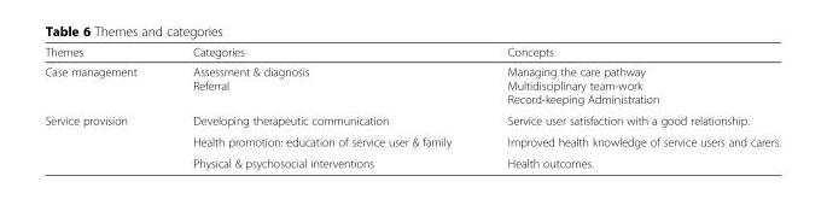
<table><thead><tr><td>Themes</td><td>Categories</td><td>Concepts</td></tr></thead><tbody><tr><td>Case management</td><td>Assessment &amp; diagnosis Referral</td><td>Managing the care pathway Multidisciplinary team-work Record-keeping Administration</td></tr><tr><td rowspan="3">Service provision</td><td>Developing therapeutic communication</td><td>Service user satisfaction with a good relationship.</td></tr><tr><td>Health promotion: education of service user &amp; family</td><td>Improved health knowledge of service users and carers.</td></tr><tr><td>Physical &amp; psychosocial interventions</td><td>Health outcomes.</td></tr></tbody></table>